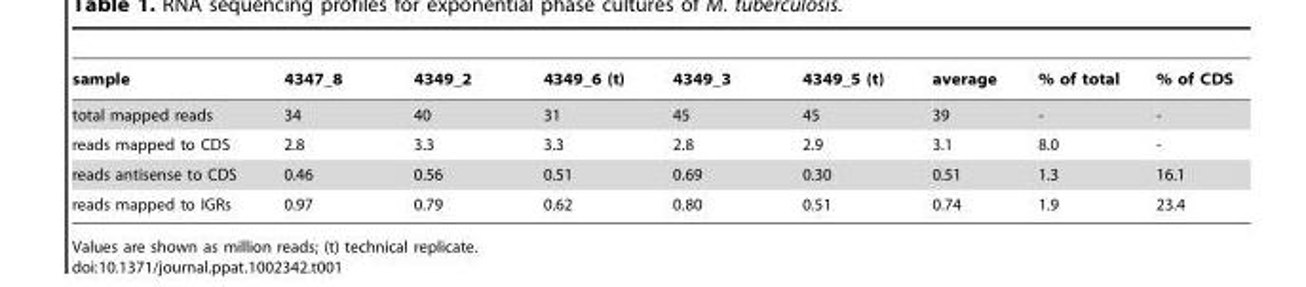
<table><thead><tr><td>sample</td><td>4347_8</td><td>4349_2</td><td>4349_6 (t)</td><td>4349_3</td><td>4349_5 (t)</td><td>average</td><td>% of total</td><td>% of CDS</td></tr></thead><tbody><tr><td>total mapped reads</td><td>34</td><td>40</td><td>31</td><td>45</td><td>45</td><td>39</td><td>-</td><td>-</td></tr><tr><td>reads mapped to CDS</td><td>2.8</td><td>3.3</td><td>3.3</td><td>2.8</td><td>2.9</td><td>3.1</td><td>8.0</td><td>-</td></tr><tr><td>reads antisense to CDS</td><td>0.46</td><td>0.56</td><td>0.51</td><td>0.69</td><td>0.30</td><td>0.51</td><td>1.3</td><td>16.1</td></tr><tr><td>reads mapped to IGRs</td><td>0.97</td><td>0.79</td><td>0.62</td><td>0.80</td><td>0.51</td><td>0.74</td><td>1.9</td><td>23.4</td></tr></tbody></table>